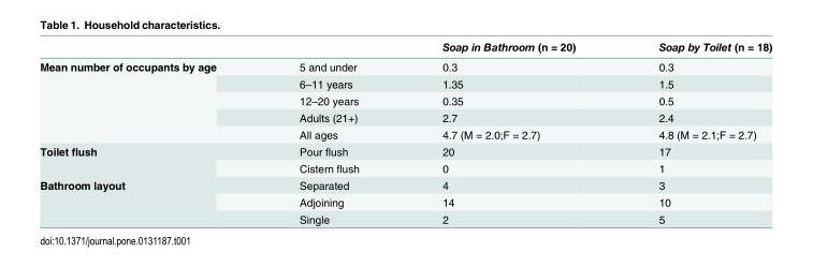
<table><thead><tr><td></td><td></td><td>Soap in Bathroom (n = 20)</td><td>Soap by Toilet (n = 18)</td></tr></thead><tbody><tr><td rowspan="5">Mean number of occupants by age</td><td>5 and under</td><td>0.3</td><td>0.3</td></tr><tr><td>6–11 years</td><td>1.35</td><td>1.5</td></tr><tr><td>12–20 years</td><td>0.35</td><td>0.5</td></tr><tr><td>Adults (21+)</td><td>2.7</td><td>2.4</td></tr><tr><td>All ages</td><td>4.7 (M = 2.0;F = 2.7)</td><td>4.8 (M = 2.1;F = 2.7)</td></tr><tr><td rowspan="2">Toilet flush</td><td>Pour flush</td><td>20</td><td>17</td></tr><tr><td>Cistern flush</td><td>0</td><td>1</td></tr><tr><td rowspan="3">Bathroom layout</td><td>Separated</td><td>4</td><td>3</td></tr><tr><td>Adjoining</td><td>14</td><td>10</td></tr><tr><td>Single</td><td>2</td><td>5</td></tr></tbody></table>